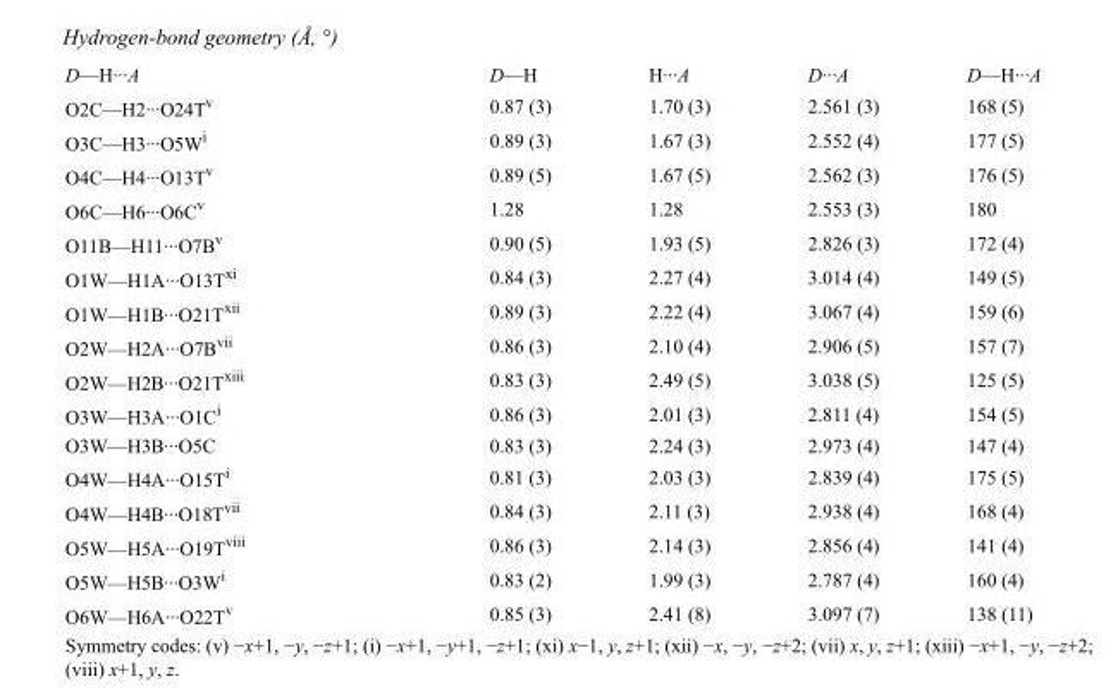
<table><tbody><tr><td>D—H···A</td><td>D—H</td><td>H···A</td><td>D···A</td><td>D—H···A</td></tr><tr><td>O2C—H2···O24T<sup>v</sup></td><td>0.87 (3)</td><td>1.70 (3)</td><td>2.561 (3)</td><td>168 (5)</td></tr><tr><td>O3C—H3···O5W<sup>i</sup></td><td>0.89 (3)</td><td>1.67 (3)</td><td>2.552 (4)</td><td>177 (5)</td></tr><tr><td>O4C—H4···O13T<sup>v</sup></td><td>0.89 (5)</td><td>1.67 (5)</td><td>2.562 (3)</td><td>176 (5)</td></tr><tr><td>O6C—H6···O6C<sup>v</sup></td><td>1.28</td><td>1.28</td><td>2.553 (3)</td><td>180</td></tr><tr><td>O11B—H11···O7B<sup>v</sup></td><td>0.90 (5)</td><td>1.93 (5)</td><td>2.826 (3)</td><td>172 (4)</td></tr><tr><td>O1W—H1A···O13T<sup>xi</sup></td><td>0.84 (3)</td><td>2.27 (4)</td><td>3.014 (4)</td><td>149 (5)</td></tr><tr><td>O1W—H1B···O21T<sup>xii</sup></td><td>0.89 (3)</td><td>2.22 (4)</td><td>3.067 (4)</td><td>159 (6)</td></tr><tr><td>O2W—H2A···O7B<sup>vii</sup></td><td>0.86 (3)</td><td>2.10 (4)</td><td>2.906 (5)</td><td>157 (7)</td></tr><tr><td>O2W—H2B···O21T<sup>xiii</sup></td><td>0.83 (3)</td><td>2.49 (5)</td><td>3.038 (5)</td><td>125 (5)</td></tr><tr><td>O3W—H3A···O1C<sup>i</sup></td><td>0.86 (3)</td><td>2.01 (3)</td><td>2.811 (4)</td><td>154 (5)</td></tr><tr><td>O3W—H3B···O5C</td><td>0.83 (3)</td><td>2.24 (3)</td><td>2.973 (4)</td><td>147 (4)</td></tr><tr><td>O4W—H4A···O15T<sup>i</sup></td><td>0.81 (3)</td><td>2.03 (3)</td><td>2.839 (4)</td><td>175 (5)</td></tr><tr><td>O4W—H4B···O18T<sup>vii</sup></td><td>0.84 (3)</td><td>2.11 (3)</td><td>2.938 (4)</td><td>168 (4)</td></tr><tr><td>O5W—H5A···O19T<sup>viii</sup></td><td>0.86 (3)</td><td>2.14 (3)</td><td>2.856 (4)</td><td>141 (4)</td></tr><tr><td>O5W—H5B···O3W<sup>i</sup></td><td>0.83 (2)</td><td>1.99 (3)</td><td>2.787 (4)</td><td>160 (4)</td></tr><tr><td>O6W—H6A···O22T<sup>v</sup></td><td>0.85 (3)</td><td>2.41 (8)</td><td>3.097 (7)</td><td>138 (11)</td></tr></tbody></table>